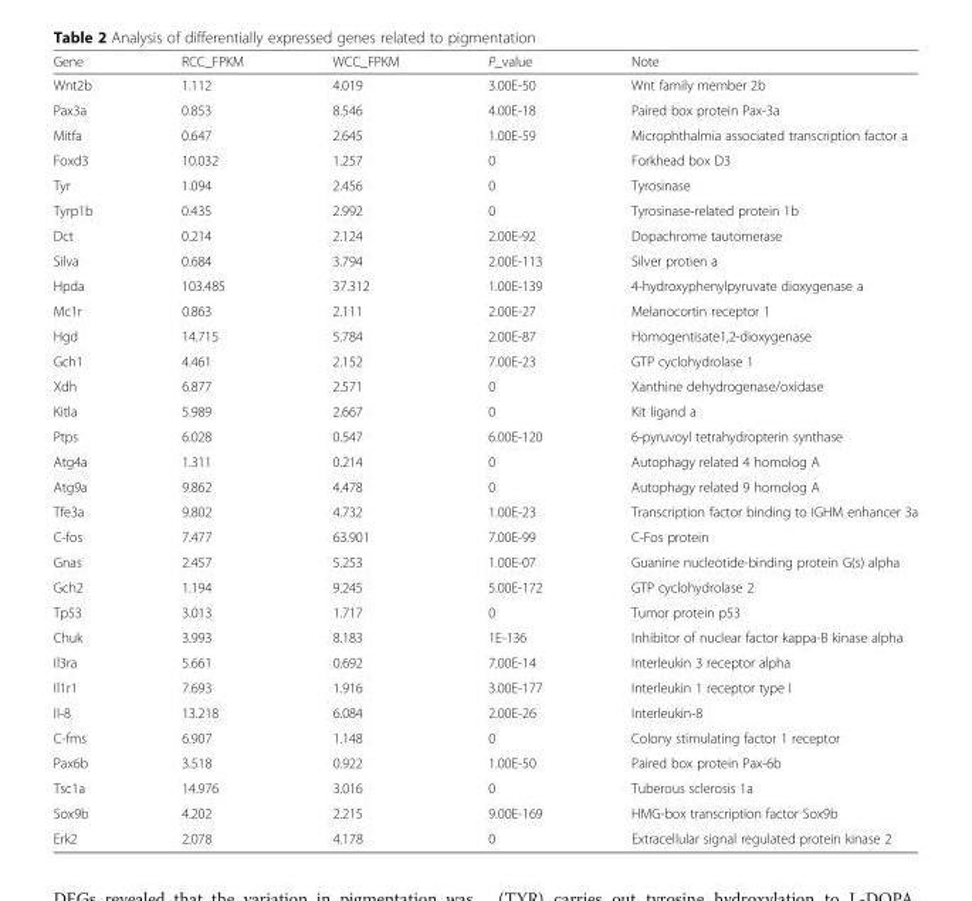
<table><thead><tr><td>Gene</td><td>RCC_FPKM</td><td>WCC_FPKM</td><td>P_value</td><td>Note</td></tr></thead><tbody><tr><td>Wnt2b</td><td>1.112</td><td>4.019</td><td>3.00E-50</td><td>Wnt family member 2b</td></tr><tr><td>Pax3a</td><td>0.853</td><td>8.546</td><td>4.00E-18</td><td>Paired box protein Pax-3a</td></tr><tr><td>Mitfa</td><td>0.647</td><td>2.645</td><td>1.00E-59</td><td>Microphthalmia associated transcription factor a</td></tr><tr><td>Foxd3</td><td>10.032</td><td>1.257</td><td>0</td><td>Forkhead box D3</td></tr><tr><td>Tyr</td><td>1.094</td><td>2.456</td><td>0</td><td>Tyrosinase</td></tr><tr><td>Tyrp1b</td><td>0.435</td><td>2.992</td><td>0</td><td>Tyrosinase-related protein 1b</td></tr><tr><td>Dct</td><td>0.214</td><td>2.124</td><td>2.00E-92</td><td>Dopachrome tautomerase</td></tr><tr><td>Silva</td><td>0.684</td><td>3.794</td><td>2.00E-113</td><td>Silver protien a</td></tr><tr><td>Hpda</td><td>103.485</td><td>37.312</td><td>1.00E-139</td><td>4-hydroxyphenylpyruvate dioxygenase a</td></tr><tr><td>Mc1r</td><td>0.863</td><td>2.111</td><td>2.00E-27</td><td>Melanocortin receptor 1</td></tr><tr><td>Hgd</td><td>14.715</td><td>5.784</td><td>2.00E-87</td><td>Homogentisate1,2-dioxygenase</td></tr><tr><td>Gch1</td><td>4.461</td><td>2.152</td><td>7.00E-23</td><td>GTP cyclohydrolase 1</td></tr><tr><td>Xdh</td><td>6.877</td><td>2.571</td><td>0</td><td>Xanthine dehydrogenase/oxidase</td></tr><tr><td>Kitla</td><td>5.989</td><td>2.667</td><td>0</td><td>Kit ligand a</td></tr><tr><td>Ptps</td><td>6.028</td><td>0.547</td><td>6.00E-120</td><td>6-pyruvoyl tetrahydropterin synthase</td></tr><tr><td>Atg4a</td><td>1.311</td><td>0.214</td><td>0</td><td>Autophagy related 4 homolog A</td></tr><tr><td>Atg9a</td><td>9.862</td><td>4.478</td><td>0</td><td>Autophagy related 9 homolog A</td></tr><tr><td>Tfe3a</td><td>9.802</td><td>4.732</td><td>1.00E-23</td><td>Transcription factor binding to IGHM enhancer 3a</td></tr><tr><td>C-fos</td><td>7.477</td><td>63.901</td><td>7.00E-99</td><td>C-Fos protein</td></tr><tr><td>Gnas</td><td>2.457</td><td>5.253</td><td>1.00E-07</td><td>Guanine nucleotide-binding protein G(s) alpha</td></tr><tr><td>Gch2</td><td>1.194</td><td>9.245</td><td>5.00E-172</td><td>GTP cyclohydrolase 2</td></tr><tr><td>Tp53</td><td>3.013</td><td>1.717</td><td>0</td><td>Tumor protein p53</td></tr><tr><td>Chuk</td><td>3.993</td><td>8.183</td><td>1E-136</td><td>Inhibitor of nuclear factor kappa-B kinase alpha</td></tr><tr><td>Il3ra</td><td>5.661</td><td>0.692</td><td>7.00E-14</td><td>Interleukin 3 receptor alpha</td></tr><tr><td>Il1r1</td><td>7.693</td><td>1.916</td><td>3.00E-177</td><td>Interleukin 1 receptor type I</td></tr><tr><td>Il-8</td><td>13.218</td><td>6.084</td><td>2.00E-26</td><td>Interleukin-8</td></tr><tr><td>C-fms</td><td>6.907</td><td>1.148</td><td>0</td><td>Colony stimulating factor 1 receptor</td></tr><tr><td>Pax6b</td><td>3.518</td><td>0.922</td><td>1.00E-50</td><td>Paired box protein Pax-6b</td></tr><tr><td>Tsc1a</td><td>14.976</td><td>3.016</td><td>0</td><td>Tuberous sclerosis 1a</td></tr><tr><td>Sox9b</td><td>4.202</td><td>2.215</td><td>9.00E-169</td><td>HMG-box transcription factor Sox9b</td></tr><tr><td>Erk2</td><td>2.078</td><td>4.178</td><td>0</td><td>Extracellular signal regulated protein kinase 2</td></tr></tbody></table>